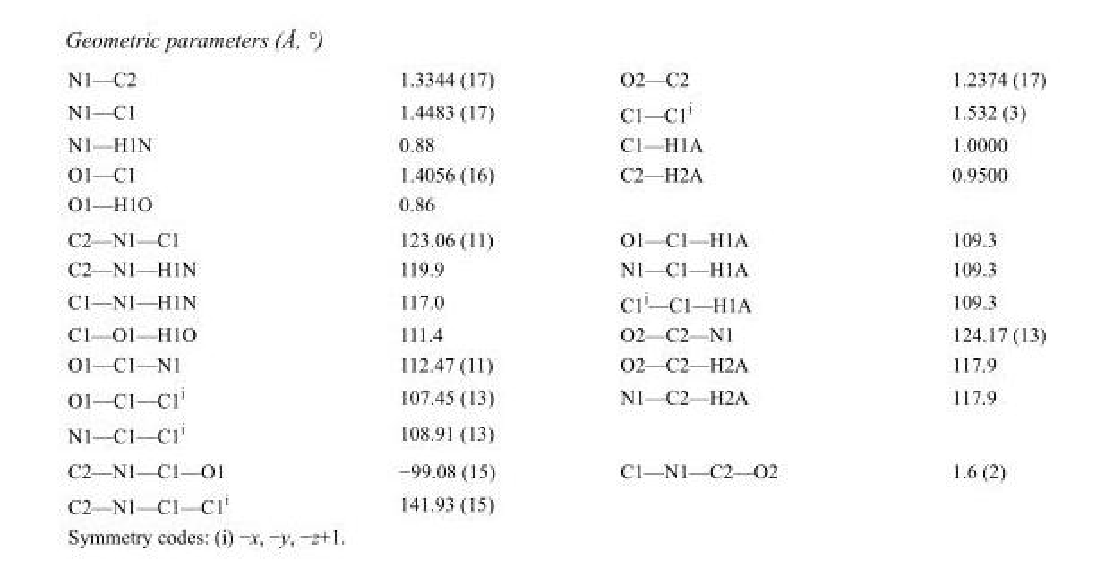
<table><tbody><tr><td>N1—C2</td><td>1.3344 (17)</td><td>O2—C2</td><td>1.2374 (17)</td></tr><tr><td>N1—C1</td><td>1.4483 (17)</td><td>C1—C1<sup>i</sup></td><td>1.532 (3)</td></tr><tr><td>N1—H1N</td><td>0.88</td><td>C1—H1A</td><td>1.0000</td></tr><tr><td>O1—C1</td><td>1.4056 (16)</td><td>C2—H2A</td><td>0.9500</td></tr><tr><td>O1—H1O</td><td>0.86</td><td></td><td></td></tr><tr><td>C2—N1—C1</td><td>123.06 (11)</td><td>O1—C1—H1A</td><td>109.3</td></tr><tr><td>C2—N1—H1N</td><td>119.9</td><td>N1—C1—H1A</td><td>109.3</td></tr><tr><td>C1—N1—H1N</td><td>117.0</td><td>C1<sup>i</sup>—C1—H1A</td><td>109.3</td></tr><tr><td>C1—O1—H1O</td><td>111.4</td><td>O2—C2—N1</td><td>124.17 (13)</td></tr><tr><td>O1—C1—N1</td><td>112.47 (11)</td><td>O2—C2—H2A</td><td>117.9</td></tr><tr><td>O1—C1—C1<sup>i</sup></td><td>107.45 (13)</td><td>N1—C2—H2A</td><td>117.9</td></tr><tr><td>N1—C1—C1<sup>i</sup></td><td>108.91 (13)</td><td></td><td></td></tr><tr><td>C2—N1—C1—O1</td><td>−99.08 (15)</td><td>C1—N1—C2—O2</td><td>1.6 (2)</td></tr><tr><td>C2—N1—C1—C1<sup>i</sup></td><td>141.93 (15)</td><td></td><td></td></tr></tbody></table>